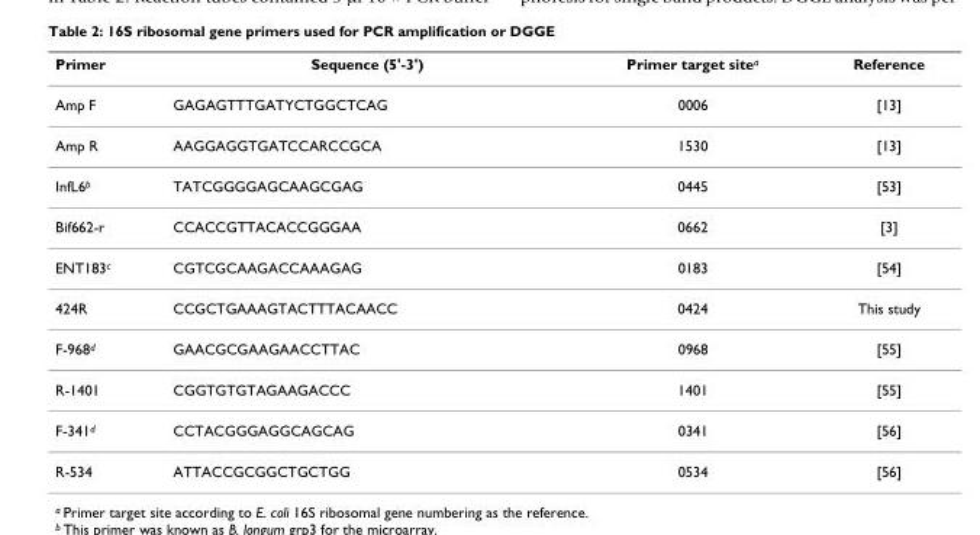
<table><thead><tr><td>Primer</td><td>Sequence (5&#x27;-3&#x27;)</td><td>Primer target site<sup>a</sup></td><td>Reference</td></tr></thead><tbody><tr><td>Amp F</td><td>GAGAGTTTGATYCTGGCTCAG</td><td>0006</td><td>[13]</td></tr><tr><td>Amp R</td><td>AAGGAGGTGATCCARCCGCA</td><td>1530</td><td>[13]</td></tr><tr><td>InfL6<sup>b</sup></td><td>TATCGGGGAGCAAGCGAG</td><td>0445</td><td>[53]</td></tr><tr><td>Bif662-r</td><td>CCACCGTTACACCGGGAA</td><td>0662</td><td>[3]</td></tr><tr><td>ENT183<sup>c</sup></td><td>CGTCGCAAGACCAAAGAG</td><td>0183</td><td>[54]</td></tr><tr><td>424R</td><td>CCGCTGAAAGTACTTTACAACC</td><td>0424</td><td>This study</td></tr><tr><td>F-968<sup>d</sup></td><td>GAACGCGAAGAACCTTAC</td><td>0968</td><td>[55]</td></tr><tr><td>R-1401</td><td>CGGTGTGTAGAAGACCC</td><td>1401</td><td>[55]</td></tr><tr><td>F-341<sup>d</sup></td><td>CCTACGGGAGGCAGCAG</td><td>0341</td><td>[56]</td></tr><tr><td>R-534</td><td>ATTACCGCGGCTGCTGG</td><td>0534</td><td>[56]</td></tr></tbody></table>